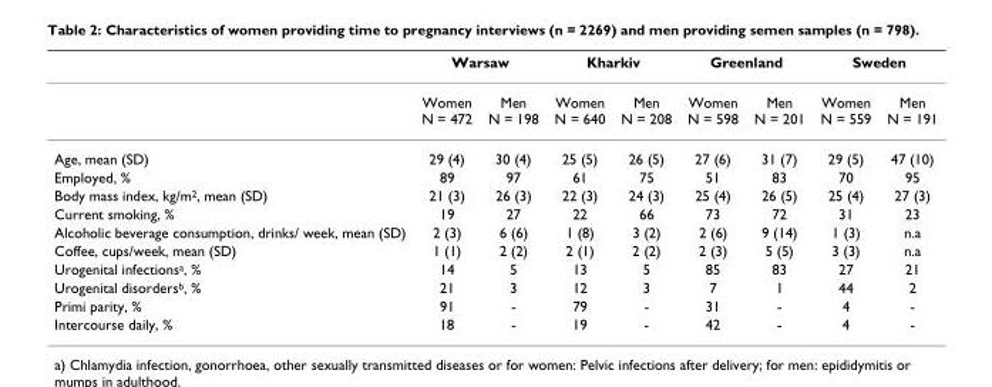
<table><thead><tr><td rowspan="2"></td><td colspan="2">Warsaw</td><td colspan="2">Kharkiv</td><td colspan="2">Greenland</td><td colspan="2">Sweden</td></tr><tr><td>Women N = 472</td><td>Men N = 198</td><td>Women N = 640</td><td>Men N = 208</td><td>Women N = 598</td><td>Men N = 201</td><td>Women N = 559</td><td>Men N = 191</td></tr></thead><tbody><tr><td>Age, mean (SD)</td><td>29 (4)</td><td>30 (4)</td><td>25 (5)</td><td>26 (5)</td><td>27 (6)</td><td>31 (7)</td><td>29 (5)</td><td>47 (10)</td></tr><tr><td>Employed, %</td><td>89</td><td>97</td><td>61</td><td>75</td><td>51</td><td>83</td><td>70</td><td>95</td></tr><tr><td>Body mass index, kg/m<sup>2</sup>, mean (SD)</td><td>21 (3)</td><td>26 (3)</td><td>22 (3)</td><td>24 (3)</td><td>25 (4)</td><td>26 (5)</td><td>25 (4)</td><td>27 (3)</td></tr><tr><td>Current smoking, %</td><td>19</td><td>27</td><td>22</td><td>66</td><td>73</td><td>72</td><td>31</td><td>23</td></tr><tr><td>Alcoholic beverage consumption, drinks/ week, mean (SD)</td><td>2 (3)</td><td>6 (6)</td><td>1 (8)</td><td>3 (2)</td><td>2 (6)</td><td>9 (14)</td><td>1 (3)</td><td>n.a</td></tr><tr><td>Coffee, cups/week, mean (SD)</td><td>1 (1)</td><td>2 (2)</td><td>2 (1)</td><td>2 (2)</td><td>2 (3)</td><td>5 (5)</td><td>3 (3)</td><td>n.a</td></tr><tr><td>Urogenital infections<sup>a</sup>, %</td><td>14</td><td>5</td><td>13</td><td>5</td><td>85</td><td>83</td><td>27</td><td>21</td></tr><tr><td>Urogenital disorders<sup>b</sup>, %</td><td>21</td><td>3</td><td>12</td><td>3</td><td>7</td><td>1</td><td>44</td><td>2</td></tr><tr><td>Primi parity, %</td><td>91</td><td>-</td><td>79</td><td>-</td><td>31</td><td>-</td><td>4</td><td>-</td></tr><tr><td>Intercourse daily, %</td><td>18</td><td>-</td><td>19</td><td>-</td><td>42</td><td>-</td><td>4</td><td>-</td></tr></tbody></table>